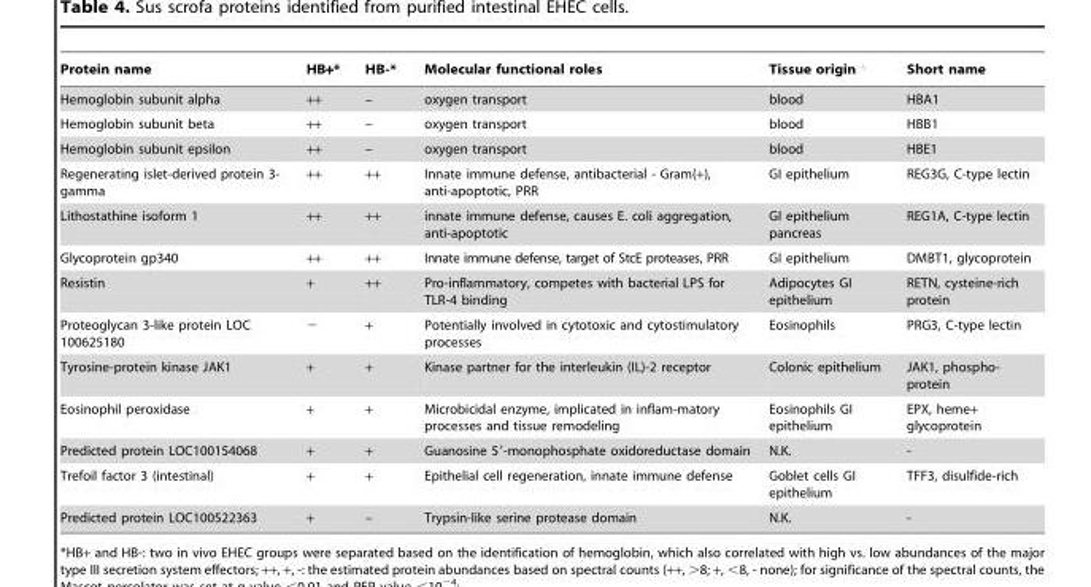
<table><thead><tr><td>Protein name</td><td>HB+*</td><td>HB-*</td><td>Molecular functional roles</td><td>Tissue origin ‘</td><td>Short name</td></tr></thead><tbody><tr><td>Hemoglobin subunit alpha</td><td>++</td><td>–</td><td>oxygen transport</td><td>blood</td><td>HBA1</td></tr><tr><td>Hemoglobin subunit beta</td><td>++</td><td>–</td><td>oxygen transport</td><td>blood</td><td>HBB1</td></tr><tr><td>Hemoglobin subunit epsilon</td><td>++</td><td>–</td><td>oxygen transport</td><td>blood</td><td>HBE1</td></tr><tr><td>Regenerating islet-derived protein 3- gamma</td><td>++</td><td>++</td><td>Innate immune defense, antibacterial - Gram(+), anti-apoptotic, PRR</td><td>GI epithelium</td><td>REG3G, C-type lectin</td></tr><tr><td>Lithostathine isoform 1</td><td>++</td><td>++</td><td>innate immune defense, causes E. coli aggregation, anti-apoptotic</td><td>GI epithelium pancreas</td><td>REG1A, C-type lectin</td></tr><tr><td>Glycoprotein gp340</td><td>++</td><td>++</td><td>Innate immune defense, target of StcE proteases, PRR</td><td>GI epithelium</td><td>DMBT1, glycoprotein</td></tr><tr><td>Resistin</td><td>+</td><td>++</td><td>Pro-inflammatory, competes with bacterial LPS for TLR-4 binding</td><td>Adipocytes GI epithelium</td><td>RETN, cysteine-rich protein</td></tr><tr><td>Proteoglycan 3-like protein LOC 100625180</td><td>−</td><td>+</td><td>Potentially involved in cytotoxic and cytostimulatory processes</td><td>Eosinophils</td><td>PRG3, C-type lectin</td></tr><tr><td>Tyrosine-protein kinase JAK1</td><td>+</td><td>+</td><td>Kinase partner for the interleukin (IL)-2 receptor</td><td>Colonic epithelium</td><td>JAK1, phospho- protein</td></tr><tr><td>Eosinophil peroxidase</td><td>+</td><td>+</td><td>Microbicidal enzyme, implicated in inflam-matory processes and tissue remodeling</td><td>Eosinophils GI epithelium</td><td>EPX, heme+ glycoprotein</td></tr><tr><td>Predicted protein LOC100154068</td><td>+</td><td>+</td><td>Guanosine 5′-monophosphate oxidoreductase domain</td><td>N.K.</td><td>-</td></tr><tr><td>Trefoil factor 3 (intestinal)</td><td>+</td><td>+</td><td>Epithelial cell regeneration, innate immune defense</td><td>Goblet cells GI epithelium</td><td>TFF3, disulfide-rich</td></tr><tr><td>Predicted protein LOC100522363</td><td>+</td><td>–</td><td>Trypsin-like serine protease domain</td><td>N.K.</td><td>-</td></tr></tbody></table>